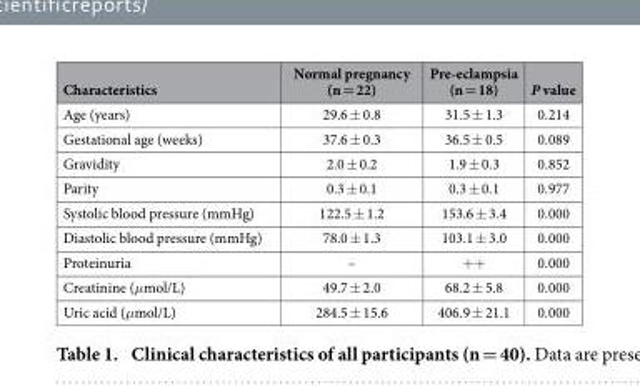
<table><thead><tr><td>Characteristics</td><td>Normal pregnancy (n = 22)</td><td>Pre-eclampsia (n = 18)</td><td>P value</td></tr></thead><tbody><tr><td>Age (years)</td><td>29.6 ± 0.8</td><td>31.5 ± 1.3</td><td>0.214</td></tr><tr><td>Gestational age (weeks)</td><td>37.6 ± 0.3</td><td>36.5 ± 0.5</td><td>0.089</td></tr><tr><td>Gravidity</td><td>2.0 ± 0.2</td><td>1.9 ± 0.3</td><td>0.852</td></tr><tr><td>Parity</td><td>0.3 ± 0.1</td><td>0.3 ± 0.1</td><td>0.977</td></tr><tr><td>Systolic blood pressure (mmHg)</td><td>122.5 ± 1.2</td><td>153.6 ± 3.4</td><td>0.000</td></tr><tr><td>Diastolic blood pressure (mmHg)</td><td>78.0 ± 1.3</td><td>103.1 ± 3.0</td><td>0.000</td></tr><tr><td>Proteinuria</td><td>–</td><td>+ +</td><td>0.000</td></tr><tr><td>Creatinine (μmol/L)</td><td>49.7 ± 2.0</td><td>68.2 ± 5.8</td><td>0.000</td></tr><tr><td>Uric acid (μmol/L)</td><td>284.5 ± 15.6</td><td>406.9 ± 21.1</td><td>0.000</td></tr></tbody></table>